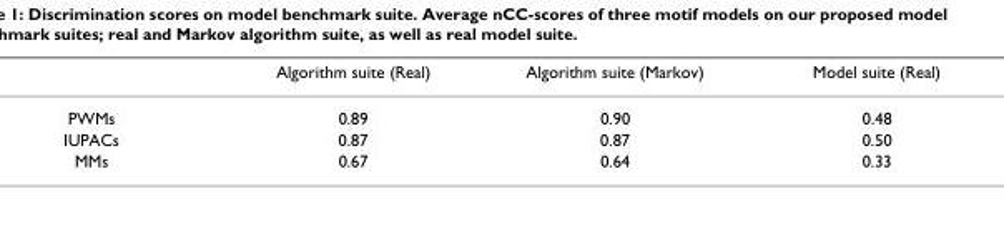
<table><thead><tr><td></td><td>Algorithm suite (Real)</td><td>Algorithm suite (Markov)</td><td>Model suite (Real)</td></tr></thead><tbody><tr><td>PWMs</td><td>0.89</td><td>0.90</td><td>0.48</td></tr><tr><td>IUPACs</td><td>0.87</td><td>0.87</td><td>0.50</td></tr><tr><td>MMs</td><td>0.67</td><td>0.64</td><td>0.33</td></tr></tbody></table>